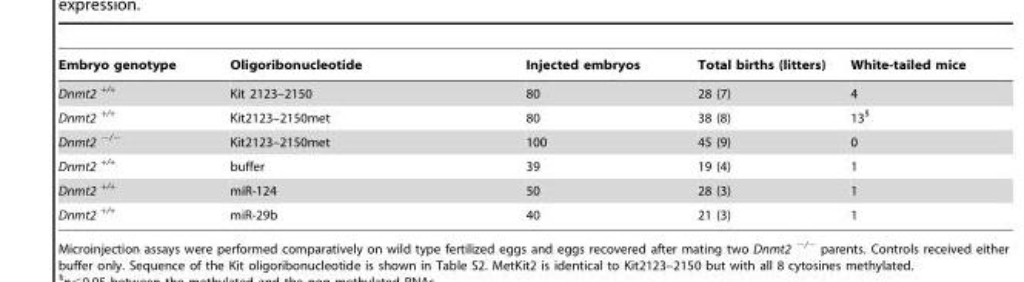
<table><thead><tr><td>Embryo genotype</td><td>Oligoribonucleotide</td><td>Injected embryos</td><td>Total births (litters)</td><td>White-tailed mice</td></tr></thead><tbody><tr><td>Dnmt2 <sup>+/+</sup></td><td>Kit 2123–2150</td><td>80</td><td>28 (7)</td><td>4</td></tr><tr><td>Dnmt2 <sup>+/+</sup></td><td>Kit2123–2150met</td><td>80</td><td>38 (8)</td><td>13§</td></tr><tr><td>Dnmt2 <sup>−/−</sup></td><td>Kit2123–2150met</td><td>100</td><td>45 (9)</td><td>0</td></tr><tr><td>Dnmt2 <sup>+/+</sup></td><td>buffer</td><td>39</td><td>19 (4)</td><td>1</td></tr><tr><td>Dnmt2 <sup>+/+</sup></td><td>miR-124</td><td>50</td><td>28 (3)</td><td>1</td></tr><tr><td>Dnmt2 <sup>+/+</sup></td><td>miR-29b</td><td>40</td><td>21 (3)</td><td>1</td></tr></tbody></table>